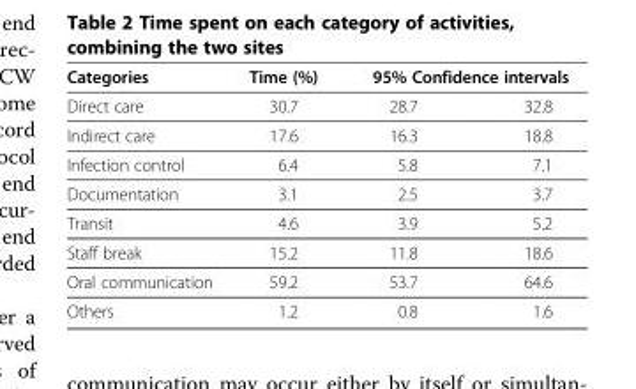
<table><thead><tr><td rowspan="2">Categories Direct care</td><td rowspan="2">Time (%) 30.7</td><td colspan="2">95% Confidence intervals</td></tr><tr><td>28.7</td><td>32.8</td></tr></thead><tbody><tr><td>Indirect care</td><td>17.6</td><td>16.3</td><td>18.8</td></tr><tr><td>Infection control</td><td>6.4</td><td>5.8</td><td>7.1</td></tr><tr><td>Documentation</td><td>3.1</td><td>2.5</td><td>3.7</td></tr><tr><td>Transit</td><td>4.6</td><td>3.9</td><td>5.2</td></tr><tr><td>Staff break</td><td>15.2</td><td>11.8</td><td>18.6</td></tr><tr><td>Oral communication</td><td>59.2</td><td>53.7</td><td>64.6</td></tr><tr><td>Others</td><td>1.2</td><td>0.8</td><td>1.6</td></tr></tbody></table>